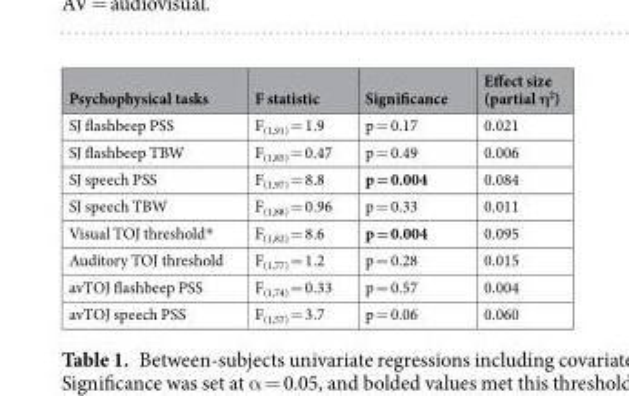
<table><thead><tr><td>Psychophysical tasks</td><td>F statistic</td><td>Significance</td><td>Effect size (partial η<sup>2</sup>)</td></tr></thead><tbody><tr><td>SJ flashbeep PSS</td><td>F<sub>(1,91)</sub> = 1.9</td><td>p = 0.17</td><td>0.021</td></tr><tr><td>SJ flashbeep TBW</td><td>F<sub>(1,85)</sub> = 0.47</td><td>p = 0.49</td><td>0.006</td></tr><tr><td>SJ speech PSS</td><td>F<sub>(1,97)</sub> = 8.8</td><td>p = 0.004</td><td>0.084</td></tr><tr><td>SJ speech TBW</td><td>F<sub>(1,88)</sub> = 0.96</td><td>p = 0.33</td><td>0.011</td></tr><tr><td>Visual TOJ threshold*</td><td>F<sub>(1,82)</sub> = 8.6</td><td>p = 0.004</td><td>0.095</td></tr><tr><td>Auditory TOJ threshold</td><td>F<sub>(1,77)</sub> = 1.2</td><td>p = 0.28</td><td>0.015</td></tr><tr><td>avTOJ flashbeep PSS</td><td>F<sub>(1,74)</sub> = 0.33</td><td>p = 0.57</td><td>0.004</td></tr><tr><td>avTOJ speech PSS</td><td>F<sub>(1,57)</sub> = 3.7</td><td>p = 0.06</td><td>0.060</td></tr></tbody></table>